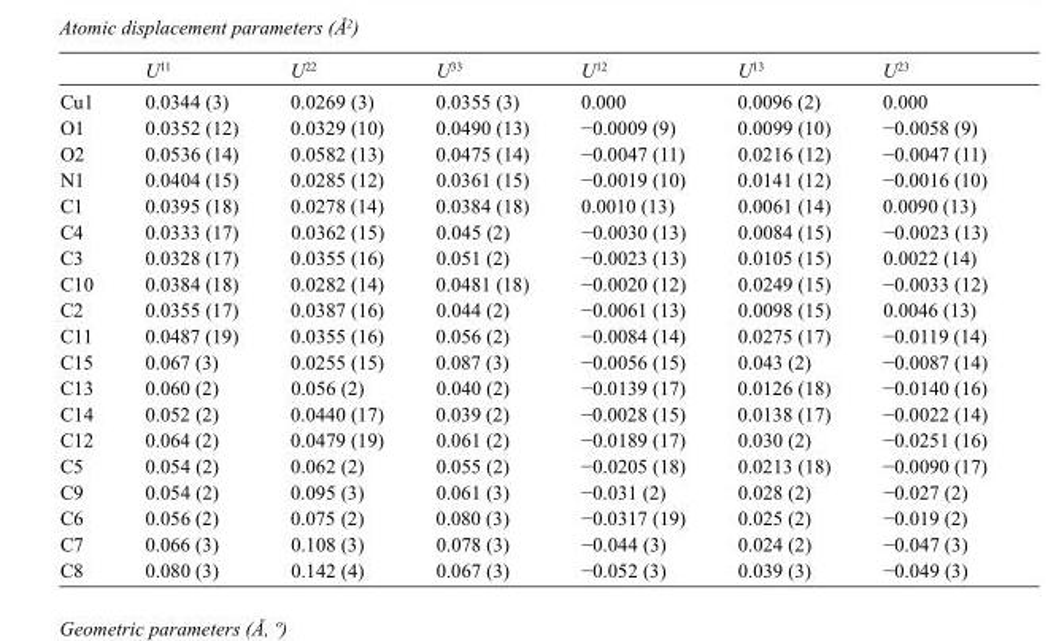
<table><thead><tr><td></td><td>U<sup>11</sup></td><td>U<sup>22</sup></td><td>U<sup>33</sup></td><td>U<sup>12</sup></td><td>U<sup>13</sup></td><td>U<sup>23</sup></td></tr></thead><tbody><tr><td>Cu1</td><td>0.0344 (3)</td><td>0.0269 (3)</td><td>0.0355 (3)</td><td>0.000</td><td>0.0096 (2)</td><td>0.000</td></tr><tr><td>O1</td><td>0.0352 (12)</td><td>0.0329 (10)</td><td>0.0490 (13)</td><td>−0.0009 (9)</td><td>0.0099 (10)</td><td>−0.0058 (9)</td></tr><tr><td>O2</td><td>0.0536 (14)</td><td>0.0582 (13)</td><td>0.0475 (14)</td><td>−0.0047 (11)</td><td>0.0216 (12)</td><td>−0.0047 (11)</td></tr><tr><td>N1</td><td>0.0404 (15)</td><td>0.0285 (12)</td><td>0.0361 (15)</td><td>−0.0019 (10)</td><td>0.0141 (12)</td><td>−0.0016 (10)</td></tr><tr><td>C1</td><td>0.0395 (18)</td><td>0.0278 (14)</td><td>0.0384 (18)</td><td>0.0010 (13)</td><td>0.0061 (14)</td><td>0.0090 (13)</td></tr><tr><td>C4</td><td>0.0333 (17)</td><td>0.0362 (15)</td><td>0.045 (2)</td><td>−0.0030 (13)</td><td>0.0084 (15)</td><td>−0.0023 (13)</td></tr><tr><td>C3</td><td>0.0328 (17)</td><td>0.0355 (16)</td><td>0.051 (2)</td><td>−0.0023 (13)</td><td>0.0105 (15)</td><td>0.0022 (14)</td></tr><tr><td>C10</td><td>0.0384 (18)</td><td>0.0282 (14)</td><td>0.0481 (18)</td><td>−0.0020 (12)</td><td>0.0249 (15)</td><td>−0.0033 (12)</td></tr><tr><td>C2</td><td>0.0355 (17)</td><td>0.0387 (16)</td><td>0.044 (2)</td><td>−0.0061 (13)</td><td>0.0098 (15)</td><td>0.0046 (13)</td></tr><tr><td>C11</td><td>0.0487 (19)</td><td>0.0355 (16)</td><td>0.056 (2)</td><td>−0.0084 (14)</td><td>0.0275 (17)</td><td>−0.0119 (14)</td></tr><tr><td>C15</td><td>0.067 (3)</td><td>0.0255 (15)</td><td>0.087 (3)</td><td>−0.0056 (15)</td><td>0.043 (2)</td><td>−0.0087 (14)</td></tr><tr><td>C13</td><td>0.060 (2)</td><td>0.056 (2)</td><td>0.040 (2)</td><td>−0.0139 (17)</td><td>0.0126 (18)</td><td>−0.0140 (16)</td></tr><tr><td>C14</td><td>0.052 (2)</td><td>0.0440 (17)</td><td>0.039 (2)</td><td>−0.0028 (15)</td><td>0.0138 (17)</td><td>−0.0022 (14)</td></tr><tr><td>C12</td><td>0.064 (2)</td><td>0.0479 (19)</td><td>0.061 (2)</td><td>−0.0189 (17)</td><td>0.030 (2)</td><td>−0.0251 (16)</td></tr><tr><td>C5</td><td>0.054 (2)</td><td>0.062 (2)</td><td>0.055 (2)</td><td>−0.0205 (18)</td><td>0.0213 (18)</td><td>−0.0090 (17)</td></tr><tr><td>C9</td><td>0.054 (2)</td><td>0.095 (3)</td><td>0.061 (3)</td><td>−0.031 (2)</td><td>0.028 (2)</td><td>−0.027 (2)</td></tr><tr><td>C6</td><td>0.056 (2)</td><td>0.075 (2)</td><td>0.080 (3)</td><td>−0.0317 (19)</td><td>0.025 (2)</td><td>−0.019 (2)</td></tr><tr><td>C7</td><td>0.066 (3)</td><td>0.108 (3)</td><td>0.078 (3)</td><td>−0.044 (3)</td><td>0.024 (2)</td><td>−0.047 (3)</td></tr><tr><td>C8</td><td>0.080 (3)</td><td>0.142 (4)</td><td>0.067 (3)</td><td>−0.052 (3)</td><td>0.039 (3)</td><td>−0.049 (3)</td></tr></tbody></table>